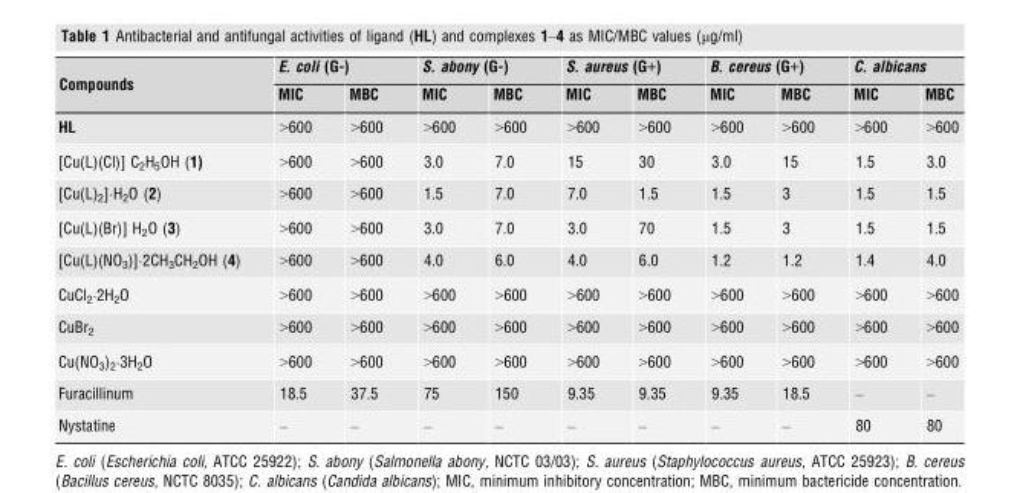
<table><thead><tr><td rowspan="2">Compounds</td><td colspan="2">E. coli (G-)</td><td colspan="2">S. abony (G-)</td><td colspan="2">S. aureus (G+)</td><td colspan="2">B. cereus (G+)</td><td colspan="2">C. albicans</td></tr><tr><td>MIC</td><td>MBC</td><td>MIC</td><td>MBC</td><td>MIC</td><td>MBC</td><td>MIC</td><td>MBC</td><td>MIC</td><td>MBC</td></tr></thead><tbody><tr><td>HL</td><td>&gt;600</td><td>&gt;600</td><td>&gt;600</td><td>&gt;600</td><td>&gt;600</td><td>&gt;600</td><td>&gt;600</td><td>&gt;600</td><td>&gt;600</td><td>&gt;600</td></tr><tr><td>[Cu(L)(Cl)] C<sub>2</sub>H<sub>5</sub>OH (1)</td><td>&gt;600</td><td>&gt;600</td><td>3.0</td><td>7.0</td><td>15</td><td>30</td><td>3.0</td><td>15</td><td>1.5</td><td>3.0</td></tr><tr><td>[Cu(L)<sub>2</sub>]·H<sub>2</sub>O (2)</td><td>&gt;600</td><td>&gt;600</td><td>1.5</td><td>7.0</td><td>7.0</td><td>1.5</td><td>1.5</td><td>3</td><td>1.5</td><td>1.5</td></tr><tr><td>[Cu(L)(Br)] H<sub>2</sub>O (3)</td><td>&gt;600</td><td>&gt;600</td><td>3.0</td><td>7.0</td><td>3.0</td><td>70</td><td>1.5</td><td>3</td><td>1.5</td><td>1.5</td></tr><tr><td>[Cu(L)(NO<sub>3</sub>)]·2CH<sub>3</sub>CH<sub>2</sub>OH (4)</td><td>&gt;600</td><td>&gt;600</td><td>4.0</td><td>6.0</td><td>4.0</td><td>6.0</td><td>1.2</td><td>1.2</td><td>1.4</td><td>4.0</td></tr><tr><td>CuCl<sub>2</sub>·2H<sub>2</sub>O</td><td>&gt;600</td><td>&gt;600</td><td>&gt;600</td><td>&gt;600</td><td>&gt;600</td><td>&gt;600</td><td>&gt;600</td><td>&gt;600</td><td>&gt;600</td><td>&gt;600</td></tr><tr><td>CuBr<sub>2</sub></td><td>&gt;600</td><td>&gt;600</td><td>&gt;600</td><td>&gt;600</td><td>&gt;600</td><td>&gt;600</td><td>&gt;600</td><td>&gt;600</td><td>&gt;600</td><td>&gt;600</td></tr><tr><td>Cu(NO<sub>3</sub>)<sub>2</sub>·3H<sub>2</sub>O</td><td>&gt;600</td><td>&gt;600</td><td>&gt;600</td><td>&gt;600</td><td>&gt;600</td><td>&gt;600</td><td>&gt;600</td><td>&gt;600</td><td>&gt;600</td><td>&gt;600</td></tr><tr><td>Furacillinum</td><td>18.5</td><td>37.5</td><td>75</td><td>150</td><td>9.35</td><td>9.35</td><td>9.35</td><td>18.5</td><td>–</td><td>–</td></tr><tr><td>Nystatine</td><td>–</td><td>–</td><td>–</td><td>–</td><td>–</td><td>–</td><td>–</td><td>–</td><td>80</td><td>80</td></tr></tbody></table>